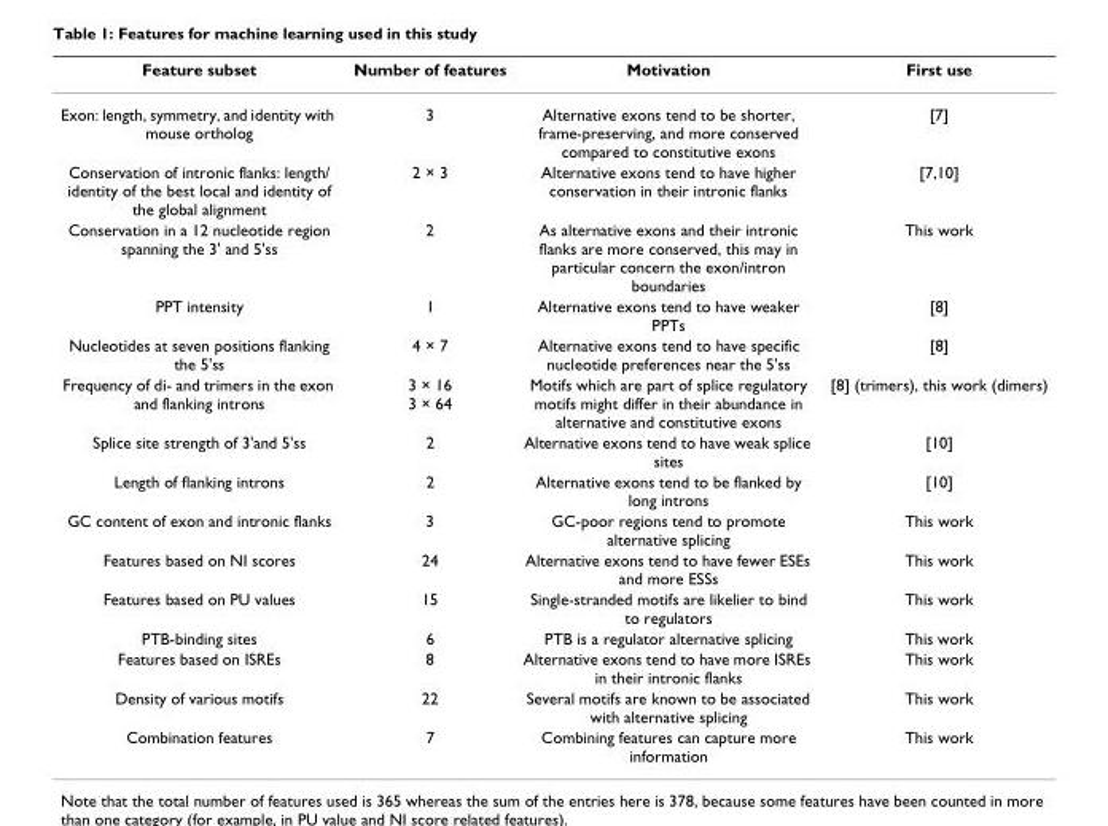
<table><thead><tr><td>Feature subset</td><td>Number of features</td><td>Motivation</td><td>First use</td></tr></thead><tbody><tr><td>Exon: length, symmetry, and identity with mouse ortholog</td><td>3</td><td>Alternative exons tend to be shorter, frame-preserving, and more conserved compared to constitutive exons</td><td>[7]</td></tr><tr><td>Conservation of intronic flanks: length/ identity of the best local and identity of the global alignment</td><td>2 × 3</td><td>Alternative exons tend to have higher conservation in their intronic flanks</td><td>[7,10]</td></tr><tr><td>Conservation in a 12 nucleotide region spanning the 3&#x27; and 5&#x27;ss</td><td>2</td><td>As alternative exons and their intronic flanks are more conserved, this may in particular concern the exon/intron boundaries</td><td>This work</td></tr><tr><td>PPT intensity</td><td>1</td><td>Alternative exons tend to have weaker PPTs</td><td>[8]</td></tr><tr><td>Nucleotides at seven positions flanking the 5&#x27;ss</td><td>4 × 7</td><td>Alternative exons tend to have specific nucleotide preferences near the 5&#x27;ss</td><td>[8]</td></tr><tr><td>Frequency of di- and trimers in the exon and flanking introns</td><td>3 × 16 3 × 64</td><td>Motifs which are part of splice regulatory motifs might differ in their abundance in alternative and constitutive exons</td><td>[8] (trimers), this work (dimers)</td></tr><tr><td>Splice site strength of 3&#x27;and 5&#x27;ss</td><td>2</td><td>Alternative exons tend to have weak splice sites</td><td>[10]</td></tr><tr><td>Length of flanking introns</td><td>2</td><td>Alternative exons tend to be flanked by long introns</td><td>[10]</td></tr><tr><td>GC content of exon and intronic flanks</td><td>3</td><td>GC-poor regions tend to promote alternative splicing</td><td>This work</td></tr><tr><td>Features based on NI scores</td><td>24</td><td>Alternative exons tend to have fewer ESEs and more ESSs</td><td>This work</td></tr><tr><td>Features based on PU values</td><td>15</td><td>Single-stranded motifs are likelier to bind to regulators</td><td>This work</td></tr><tr><td>PTB-binding sites</td><td>6</td><td>PTB is a regulator alternative splicing</td><td>This work</td></tr><tr><td>Features based on ISREs</td><td>8</td><td>Alternative exons tend to have more ISREs in their intronic flanks</td><td>This work</td></tr><tr><td>Density of various motifs</td><td>22</td><td>Several motifs are known to be associated with alternative splicing</td><td>This work</td></tr><tr><td>Combination features</td><td>7</td><td>Combining features can capture more information</td><td>This work</td></tr></tbody></table>